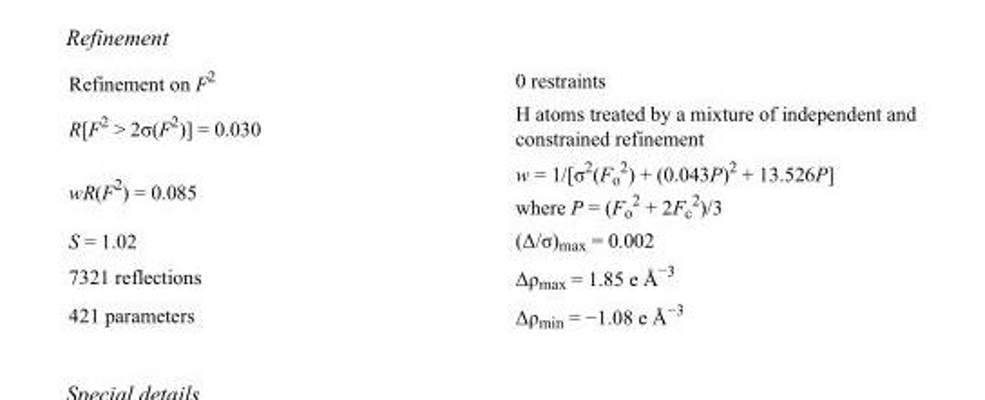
<table><tbody><tr><td>Refinement on F<sup>2</sup></td><td>0 restraints</td></tr><tr><td>R[F<sup>2</sup> &gt; 2σ(F<sup>2</sup>)] = 0.030</td><td>H atoms treated by a mixture of independent and constrained refinement</td></tr><tr><td>wR(F<sup>2</sup>) = 0.085</td><td>w = 1/[σ<sup>2</sup>(F<sub>o</sub> <sup>2</sup>) + (0.043P)<sup>2</sup> + 13.526P] where P = (F<sub>o</sub> <sup>2</sup> + 2F<sub>c</sub> <sup>2</sup>)/3</td></tr><tr><td>S = 1.02</td><td>(Δ/σ)<sub>max</sub> = 0.002</td></tr><tr><td>7321 reflections</td><td>Δρ<sub>max</sub> = 1.85 e Å<sup>−3</sup></td></tr><tr><td>421 parameters</td><td>Δρ<sub>min</sub> = −1.08 e Å<sup>−3</sup></td></tr></tbody></table>